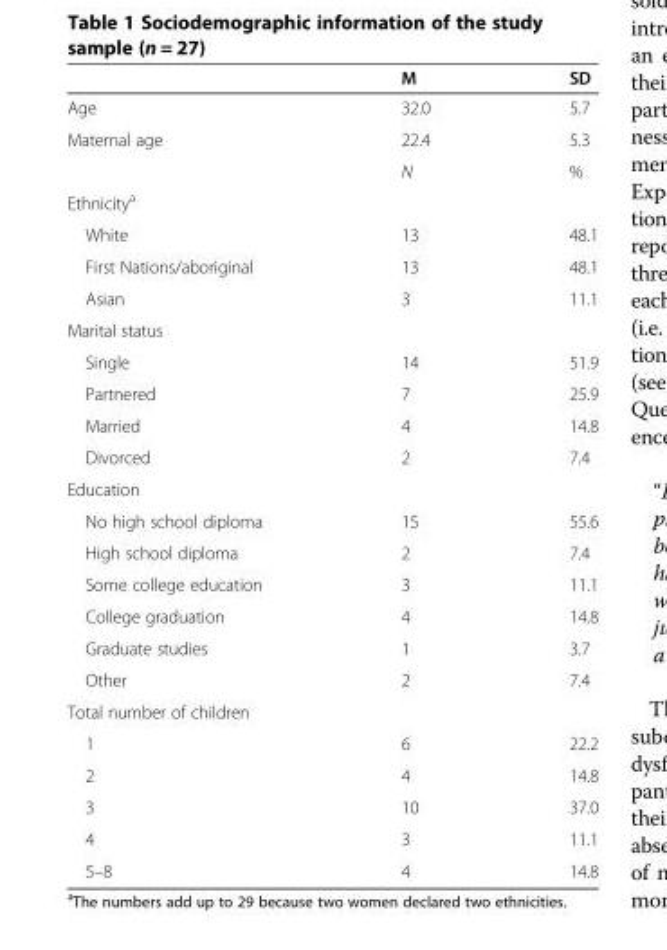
<table><thead><tr><td></td><td>M</td><td>SD</td></tr></thead><tbody><tr><td>Age</td><td>32.0</td><td>5.7</td></tr><tr><td rowspan="2">Maternal age</td><td>22.4</td><td>5.3</td></tr><tr><td>N</td><td>%</td></tr><tr><td colspan="3">Ethnicity<sup>a</sup></td></tr><tr><td>White</td><td>13</td><td>48.1</td></tr><tr><td>First Nations/aboriginal</td><td>13</td><td>48.1</td></tr><tr><td>Asian</td><td>3</td><td>11.1</td></tr><tr><td colspan="3">Marital status</td></tr><tr><td>Single</td><td>14</td><td>51.9</td></tr><tr><td>Partnered</td><td>7</td><td>25.9</td></tr><tr><td>Married</td><td>4</td><td>14.8</td></tr><tr><td>Divorced</td><td>2</td><td>7.4</td></tr><tr><td colspan="3">Education</td></tr><tr><td>No high school diploma</td><td>15</td><td>55.6</td></tr><tr><td>High school diploma</td><td>2</td><td>7.4</td></tr><tr><td>Some college education</td><td>3</td><td>11.1</td></tr><tr><td>College graduation</td><td>4</td><td>14.8</td></tr><tr><td>Graduate studies</td><td>1</td><td>3.7</td></tr><tr><td>Other</td><td>2</td><td>7.4</td></tr><tr><td colspan="3">Total number of children</td></tr><tr><td>1</td><td>6</td><td>22.2</td></tr><tr><td>2</td><td>4</td><td>14.8</td></tr><tr><td>3</td><td>10</td><td>37.0</td></tr><tr><td>4</td><td>3</td><td>11.1</td></tr><tr><td>5–8</td><td>4</td><td>14.8</td></tr></tbody></table>